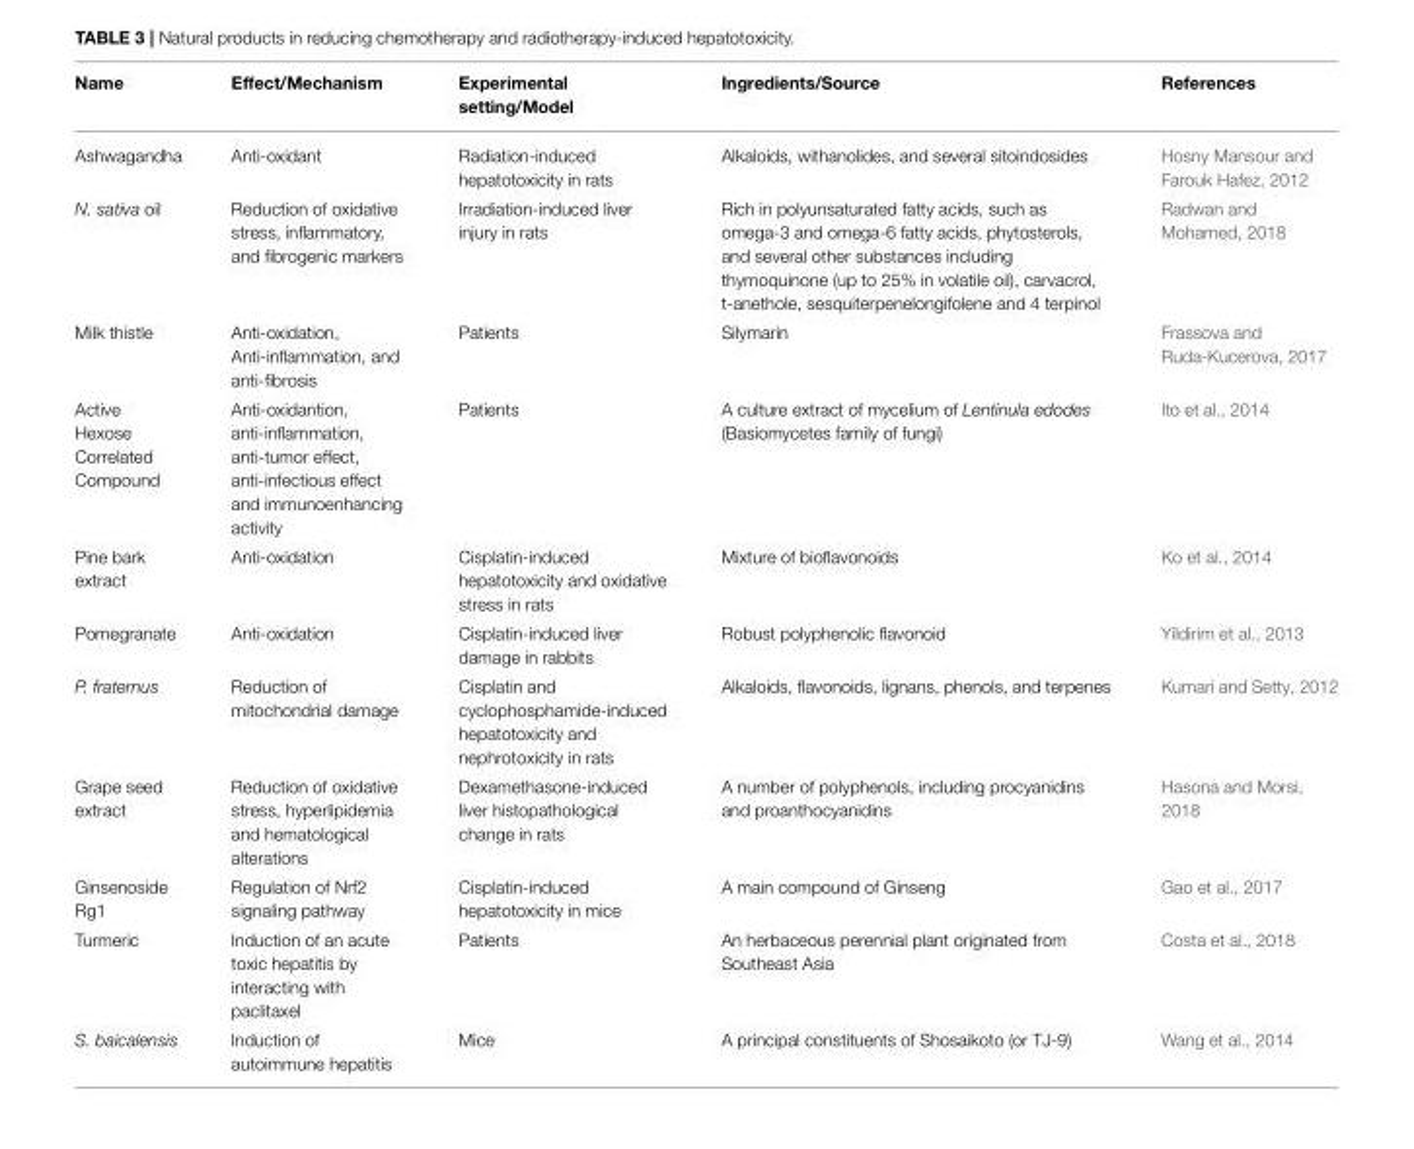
<table><thead><tr><td>Name</td><td>Effect/Mechanism</td><td>Experimental setting/Model</td><td>Ingredients/Source</td><td>References</td></tr></thead><tbody><tr><td>Ashwagandha</td><td>Anti-oxidant</td><td>Radiation-induced hepatotoxicity in rats</td><td>Alkaloids, withanolides, and several sitoindosides</td><td>Hosny Mansour and Farouk Hafez, 2012</td></tr><tr><td>N. sativa oil</td><td>Reduction of oxidative stress, inflammatory, and fibrogenic markers</td><td>Irradiation-induced liver injury in rats</td><td>Rich in polyunsaturated fatty acids, such as omega-3 and omega-6 fatty acids, phytosterols, and several other substances including thymoquinone (up to 25% in volatile oil), carvacrol, t-anethole, sesquiterpenelongifolene and 4 terpinol</td><td>Radwan and Mohamed, 2018</td></tr><tr><td>Milk thistle</td><td>Anti-oxidation, Anti-inflammation, and anti-fibrosis</td><td>Patients</td><td>Silymarin</td><td>Frassova and Ruda-Kucerova, 2017</td></tr><tr><td>Active Hexose Correlated Compound</td><td>Anti-oxidantion, anti-inflammation, anti-tumor effect, anti-infectious effect and immunoenhancing activity</td><td>Patients</td><td>A culture extract of mycelium of Lentinula edodes (Basiomycetes family of fungi)</td><td>Ito et al., 2014</td></tr><tr><td>Pine bark extract</td><td>Anti-oxidation</td><td>Cisplatin-induced hepatotoxicity and oxidative stress in rats</td><td>Mixture of bioflavonoids</td><td>Ko et al., 2014</td></tr><tr><td>Pomegranate</td><td>Anti-oxidation</td><td>Cisplatin-induced liver damage in rabbits</td><td>Robust polyphenolic flavonoid</td><td>Yildirim et al., 2013</td></tr><tr><td>P. fraternus</td><td>Reduction of mitochondrial damage</td><td>Cisplatin and cyclophosphamide-induced hepatotoxicity and nephrotoxicity in rats</td><td>Alkaloids, flavonoids, lignans, phenols, and terpenes</td><td>Kumari and Setty, 2012</td></tr><tr><td>Grape seed extract</td><td>Reduction of oxidative stress, hyperlipidemia and hematological alterations</td><td>Dexamethasone-induced liver histopathological change in rats</td><td>A number of polyphenols, including procyanidins and proanthocyanidins</td><td>Hasona and Morsi, 2018</td></tr><tr><td>Ginsenoside Rg1</td><td>Regulation of Nrf2 signaling pathway</td><td>Cisplatin-induced hepatotoxicity in mice</td><td>A main compound of Ginseng</td><td>Gao et al., 2017</td></tr><tr><td>Turmeric</td><td>Induction of an acute toxic hepatitis by interacting with paclitaxel</td><td>Patients</td><td>An herbaceous perennial plant originated from Southeast Asia</td><td>Costa et al., 2018</td></tr><tr><td>S. baicalensis</td><td>Induction of autoimmune hepatitis</td><td>Mice</td><td>A principal constituents of Shosaikoto (or TJ-9)</td><td>Wang et al., 2014</td></tr></tbody></table>